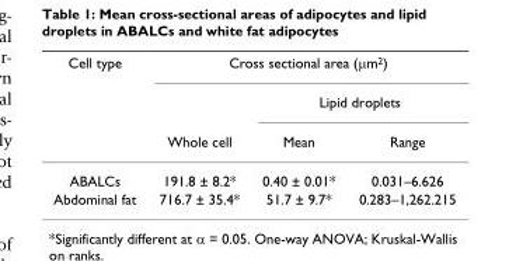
<table><thead><tr><td rowspan="3">Cell type</td><td colspan="3">Cross sectional area (μm<sup>2</sup>)</td></tr><tr><td rowspan="2">Whole cell</td><td colspan="2">Lipid droplets</td></tr><tr><td>Mean</td><td>Range</td></tr></thead><tbody><tr><td>ABALCs</td><td>191.8 ± 8.2*</td><td>0.40 ± 0.01*</td><td>0.031–6.626</td></tr><tr><td>Abdominal fat</td><td>716.7 ± 35.4*</td><td>51.7 ± 9.7*</td><td>0.283–1,262.215</td></tr></tbody></table>